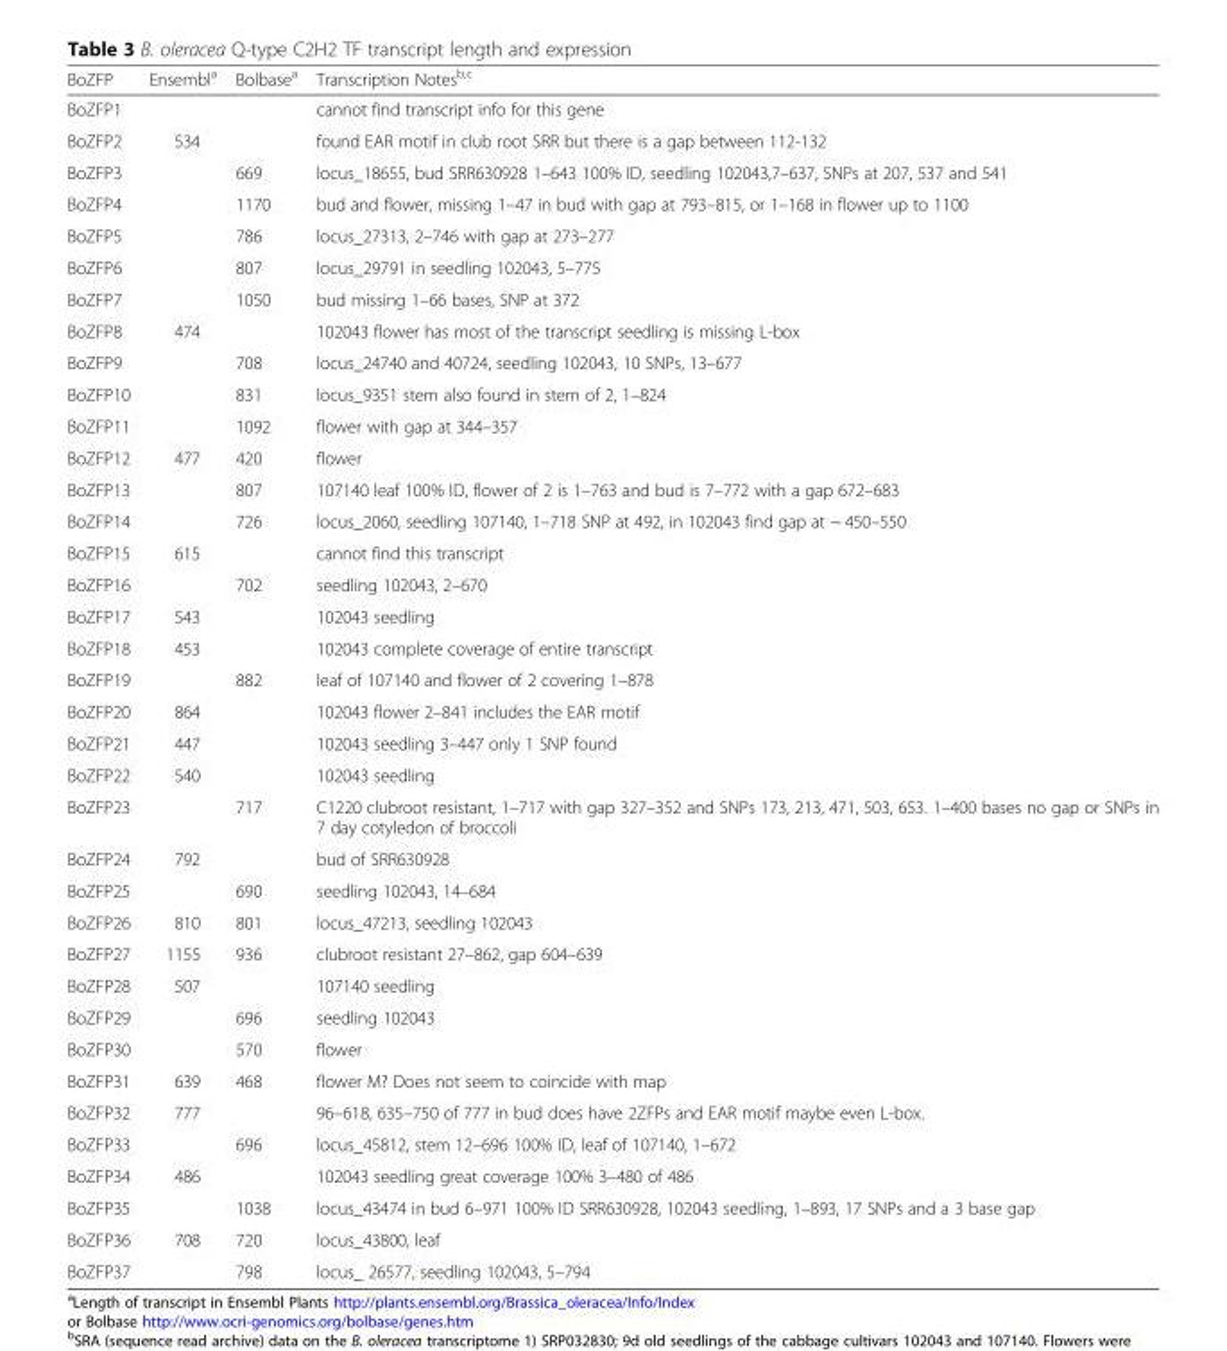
<table><thead><tr><td>BoZFP</td><td>Ensembl<sup>a</sup></td><td>Bolbase<sup>a</sup></td><td>Transcription Notes<sup>b,c</sup></td></tr></thead><tbody><tr><td>BoZFP1</td><td></td><td></td><td>cannot find transcript info for this gene</td></tr><tr><td>BoZFP2</td><td>534</td><td></td><td>found EAR motif in club root SRR but there is a gap between 112-132</td></tr><tr><td>BoZFP3</td><td></td><td>669</td><td>locus_18655, bud SRR630928 1–643 100% ID, seedling 102043,7–637, SNPs at 207, 537 and 541</td></tr><tr><td>BoZFP4</td><td></td><td>1170</td><td>bud and flower, missing 1–47 in bud with gap at 793–815, or 1–168 in flower up to 1100</td></tr><tr><td>BoZFP5</td><td></td><td>786</td><td>locus_27313, 2–746 with gap at 273–277</td></tr><tr><td>BoZFP6</td><td></td><td>807</td><td>locus_29791 in seedling 102043, 5–775</td></tr><tr><td>BoZFP7</td><td></td><td>1050</td><td>bud missing 1–66 bases, SNP at 372</td></tr><tr><td>BoZFP8</td><td>474</td><td></td><td>102043 flower has most of the transcript seedling is missing L-box</td></tr><tr><td>BoZFP9</td><td></td><td>708</td><td>locus_24740 and 40724, seedling 102043, 10 SNPs, 13–677</td></tr><tr><td>BoZFP10</td><td></td><td>831</td><td>locus_9351 stem also found in stem of 2, 1–824</td></tr><tr><td>BoZFP11</td><td></td><td>1092</td><td>flower with gap at 344–357</td></tr><tr><td>BoZFP12</td><td>477</td><td>420</td><td>flower</td></tr><tr><td>BoZFP13</td><td></td><td>807</td><td>107140 leaf 100% ID, flower of 2 is 1–763 and bud is 7–772 with a gap 672–683</td></tr><tr><td>BoZFP14</td><td></td><td>726</td><td>locus_2060, seedling 107140, 1–718 SNP at 492, in 102043 find gap at ~ 450–550</td></tr><tr><td>BoZFP15</td><td>615</td><td></td><td>cannot find this transcript</td></tr><tr><td>BoZFP16</td><td></td><td>702</td><td>seedling 102043, 2–670</td></tr><tr><td>BoZFP17</td><td>543</td><td></td><td>102043 seedling</td></tr><tr><td>BoZFP18</td><td>453</td><td></td><td>102043 complete coverage of entire transcript</td></tr><tr><td>BoZFP19</td><td></td><td>882</td><td>leaf of 107140 and flower of 2 covering 1–878</td></tr><tr><td>BoZFP20</td><td>864</td><td></td><td>102043 flower 2–841 includes the EAR motif</td></tr><tr><td>BoZFP21</td><td>447</td><td></td><td>102043 seedling 3–447 only 1 SNP found</td></tr><tr><td>BoZFP22</td><td>540</td><td></td><td>102043 seedling</td></tr><tr><td>BoZFP23</td><td></td><td>717</td><td>C1220 clubroot resistant, 1–717 with gap 327–352 and SNPs 173, 213, 471, 503, 653. 1–400 bases no gap or SNPs in 7 day cotyledon of broccoli</td></tr><tr><td>BoZFP24</td><td>792</td><td></td><td>bud of SRR630928</td></tr><tr><td>BoZFP25</td><td></td><td>690</td><td>seedling 102043, 14–684</td></tr><tr><td>BoZFP26</td><td>810</td><td>801</td><td>locus_47213, seedling 102043</td></tr><tr><td>BoZFP27</td><td>1155</td><td>936</td><td>clubroot resistant 27–862, gap 604–639</td></tr><tr><td>BoZFP28</td><td>507</td><td></td><td>107140 seedling</td></tr><tr><td>BoZFP29</td><td></td><td>696</td><td>seedling 102043</td></tr><tr><td>BoZFP30</td><td></td><td>570</td><td>flower</td></tr><tr><td>BoZFP31</td><td>639</td><td>468</td><td>flower M? Does not seem to coincide with map</td></tr><tr><td>BoZFP32</td><td>777</td><td></td><td>96–618, 635–750 of 777 in bud does have 2ZFPs and EAR motif maybe even L-box.</td></tr><tr><td>BoZFP33</td><td></td><td>696</td><td>locus_45812, stem 12–696 100% ID, leaf of 107140, 1–672</td></tr><tr><td>BoZFP34</td><td>486</td><td></td><td>102043 seedling great coverage 100% 3–480 of 486</td></tr><tr><td>BoZFP35</td><td></td><td>1038</td><td>locus_43474 in bud 6–971 100% ID SRR630928, 102043 seedling, 1–893, 17 SNPs and a 3 base gap</td></tr><tr><td>BoZFP36</td><td>708</td><td>720</td><td>locus_43800, leaf</td></tr><tr><td>BoZFP37</td><td></td><td>798</td><td>locus_ 26577, seedling 102043, 5–794</td></tr></tbody></table>